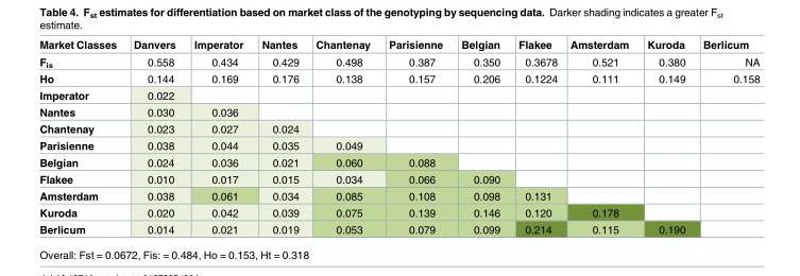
<table><thead><tr><td>Market Classes</td><td>Danvers</td><td>Imperator</td><td>Nantes</td><td>Chantenay</td><td>Parisienne</td><td>Belgian</td><td>Flakee</td><td>Amsterdam</td><td>Kuroda</td><td>Berlicum</td></tr></thead><tbody><tr><td>F<sub>is</sub></td><td>0.558</td><td>0.434</td><td>0.429</td><td>0.498</td><td>0.387</td><td>0.350</td><td>0.3678</td><td>0.521</td><td>0.380</td><td>NA</td></tr><tr><td>Ho</td><td>0.144</td><td>0.169</td><td>0.176</td><td>0.138</td><td>0.157</td><td>0.206</td><td>0.1224</td><td>0.111</td><td>0.149</td><td>0.158</td></tr><tr><td>Imperator</td><td>0.022</td><td></td><td></td><td></td><td></td><td></td><td></td><td></td><td></td><td></td></tr><tr><td>Nantes</td><td>0.030</td><td>0.036</td><td></td><td></td><td></td><td></td><td></td><td></td><td></td><td></td></tr><tr><td>Chantenay</td><td>0.023</td><td>0.027</td><td>0.024</td><td></td><td></td><td></td><td></td><td></td><td></td><td></td></tr><tr><td>Parisienne</td><td>0.038</td><td>0.044</td><td>0.035</td><td>0.049</td><td></td><td></td><td></td><td></td><td></td><td></td></tr><tr><td>Belgian</td><td>0.024</td><td>0.036</td><td>0.021</td><td>0.060</td><td>0.088</td><td></td><td></td><td></td><td></td><td></td></tr><tr><td>Flakee</td><td>0.010</td><td>0.017</td><td>0.015</td><td>0.034</td><td>0.066</td><td>0.090</td><td></td><td></td><td></td><td></td></tr><tr><td>Amsterdam</td><td>0.038</td><td>0.061</td><td>0.034</td><td>0.085</td><td>0.108</td><td>0.098</td><td>0.131</td><td></td><td></td><td></td></tr><tr><td>Kuroda</td><td>0.020</td><td>0.042</td><td>0.039</td><td>0.075</td><td>0.139</td><td>0.146</td><td>0.120</td><td>0.178</td><td></td><td></td></tr><tr><td>Berlicum</td><td>0.014</td><td>0.021</td><td>0.019</td><td>0.053</td><td>0.079</td><td>0.099</td><td>0.214</td><td>0.115</td><td>0.190</td><td></td></tr></tbody></table>